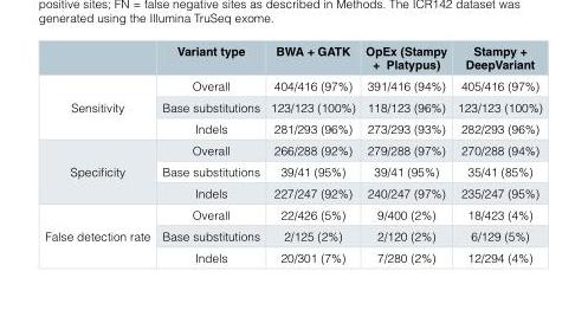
<table><thead><tr><td></td><td>Variant type</td><td>BWA + GATK</td><td>OpEx (Stampy + Platypus)</td><td>Stampy + DeepVariant</td></tr></thead><tbody><tr><td rowspan="3">Sensitivity</td><td>Overall</td><td>404/416 (97%)</td><td>391/416 (94%)</td><td>405/416 (97%)</td></tr><tr><td>Base substitutions</td><td>123/123 (100%)</td><td>118/123 (96%)</td><td>123/123 (100%)</td></tr><tr><td>Indels</td><td>281/293 (96%)</td><td>273/293 (93%)</td><td>282/293 (96%)</td></tr><tr><td rowspan="3">Specificity</td><td>Overall</td><td>266/288 (92%)</td><td>279/288 (97%)</td><td>270/288 (94%)</td></tr><tr><td>Base substitutions</td><td>39/41 (95%)</td><td>39/41 (95%)</td><td>35/41 (85%)</td></tr><tr><td>Indels</td><td>227/247 (92%)</td><td>240/247 (97%)</td><td>235/247 (95%)</td></tr><tr><td rowspan="3">False detection rate</td><td>Overall</td><td>22/426 (5%)</td><td>9/400 (2%)</td><td>18/423 (4%)</td></tr><tr><td>Base substitutions</td><td>2/125 (2%)</td><td>2/120 (2%)</td><td>6/129 (5%)</td></tr><tr><td>Indels</td><td>20/301 (7%)</td><td>7/280 (2%)</td><td>12/294 (4%)</td></tr></tbody></table>